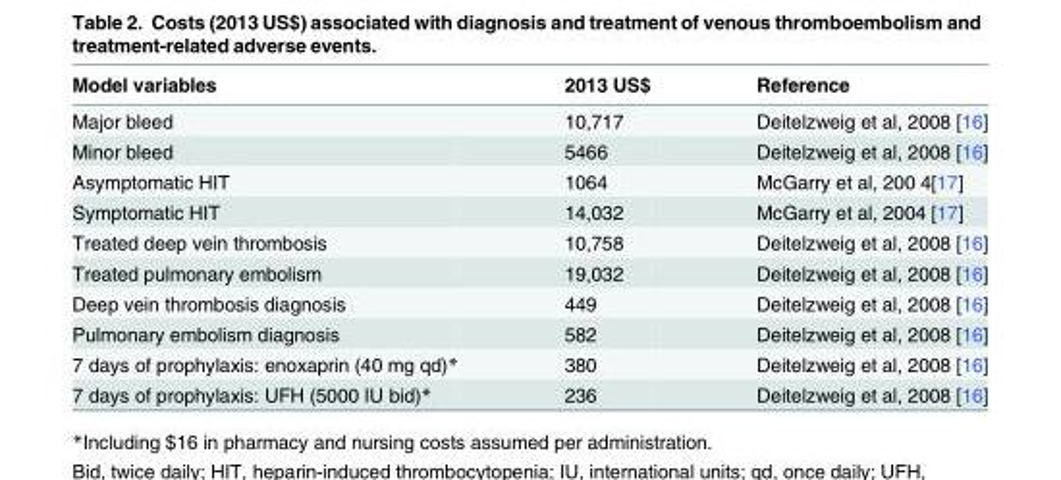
<table><thead><tr><td>Model variables</td><td>2013 US$</td><td>Reference</td></tr></thead><tbody><tr><td>Major bleed</td><td>10,717</td><td>Deitelzweig et al, 2008 [16]</td></tr><tr><td>Minor bleed</td><td>5466</td><td>Deitelzweig et al, 2008 [16]</td></tr><tr><td>Asymptomatic HIT</td><td>1064</td><td>McGarry et al, 200 4[17]</td></tr><tr><td>Symptomatic HIT</td><td>14,032</td><td>McGarry et al, 2004 [17]</td></tr><tr><td>Treated deep vein thrombosis</td><td>10,758</td><td>Deitelzweig et al, 2008 [16]</td></tr><tr><td>Treated pulmonary embolism</td><td>19,032</td><td>Deitelzweig et al, 2008 [16]</td></tr><tr><td>Deep vein thrombosis diagnosis</td><td>449</td><td>Deitelzweig et al, 2008 [16]</td></tr><tr><td>Pulmonary embolism diagnosis</td><td>582</td><td>Deitelzweig et al, 2008 [16]</td></tr><tr><td>7 days of prophylaxis: enoxaprin (40 mg qd)*</td><td>380</td><td>Deitelzweig et al, 2008 [16]</td></tr><tr><td>7 days of prophylaxis: UFH (5000 IU bid)*</td><td>236</td><td>Deitelzweig et al, 2008 [16]</td></tr></tbody></table>